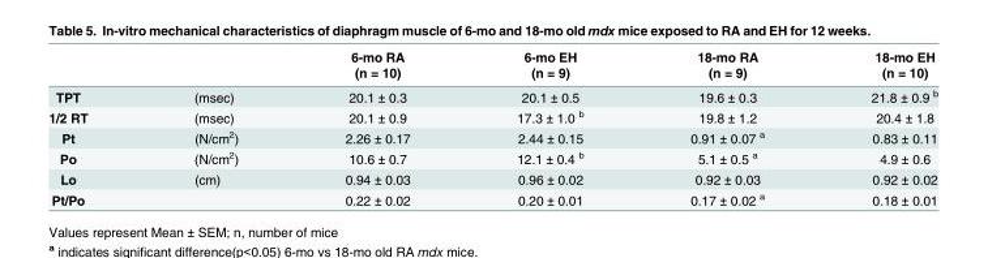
<table><thead><tr><td rowspan="2"></td><td rowspan="2"></td><td rowspan="2">6-mo RA (n = 10)</td><td rowspan="2">6-mo EH (n = 9)</td><td rowspan="2">18-mo RA (n = 9)</td><td rowspan="2">18-mo EH (n = 10)</td></tr><tr></tr></thead><tbody><tr><td>TPT</td><td>(msec)</td><td>20.1 ± 0.3</td><td>20.1 ± 0.5</td><td>19.6 ± 0.3</td><td>21.8 ± 0.9 <sup>b</sup></td></tr><tr><td>1/2 RT</td><td>(msec)</td><td>20.1 ± 0.9</td><td>17.3 ± 1.0 <sup>b</sup></td><td>19.8 ± 1.2</td><td>20.4 ± 1.8</td></tr><tr><td>Pt</td><td>(N/cm<sup>2</sup>)</td><td>2.26 ± 0.17</td><td>2.44 ± 0.15</td><td>0.91 ± 0.07 <sup>a</sup></td><td>0.83 ± 0.11</td></tr><tr><td>Po</td><td>(N/cm<sup>2</sup>)</td><td>10.6 ± 0.7</td><td>12.1 ± 0.4 <sup>b</sup></td><td>5.1 ± 0.5 <sup>a</sup></td><td>4.9 ± 0.6</td></tr><tr><td>Lo</td><td>(cm)</td><td>0.94 ± 0.03</td><td>0.96 ± 0.02</td><td>0.92 ± 0.03</td><td>0.92 ± 0.02</td></tr><tr><td>Pt/Po</td><td></td><td>0.22 ± 0.02</td><td>0.20 ± 0.01</td><td>0.17 ± 0.02 <sup>a</sup></td><td>0.18 ± 0.01</td></tr></tbody></table>